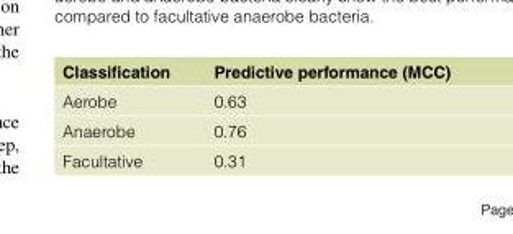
<table><thead><tr><td>Classification</td><td>Predictive performance (MCC)</td></tr></thead><tbody><tr><td>Aerobe</td><td>0.63</td></tr><tr><td>Anaerobe</td><td>0.76</td></tr><tr><td>Facultative</td><td>0.31</td></tr></tbody></table>